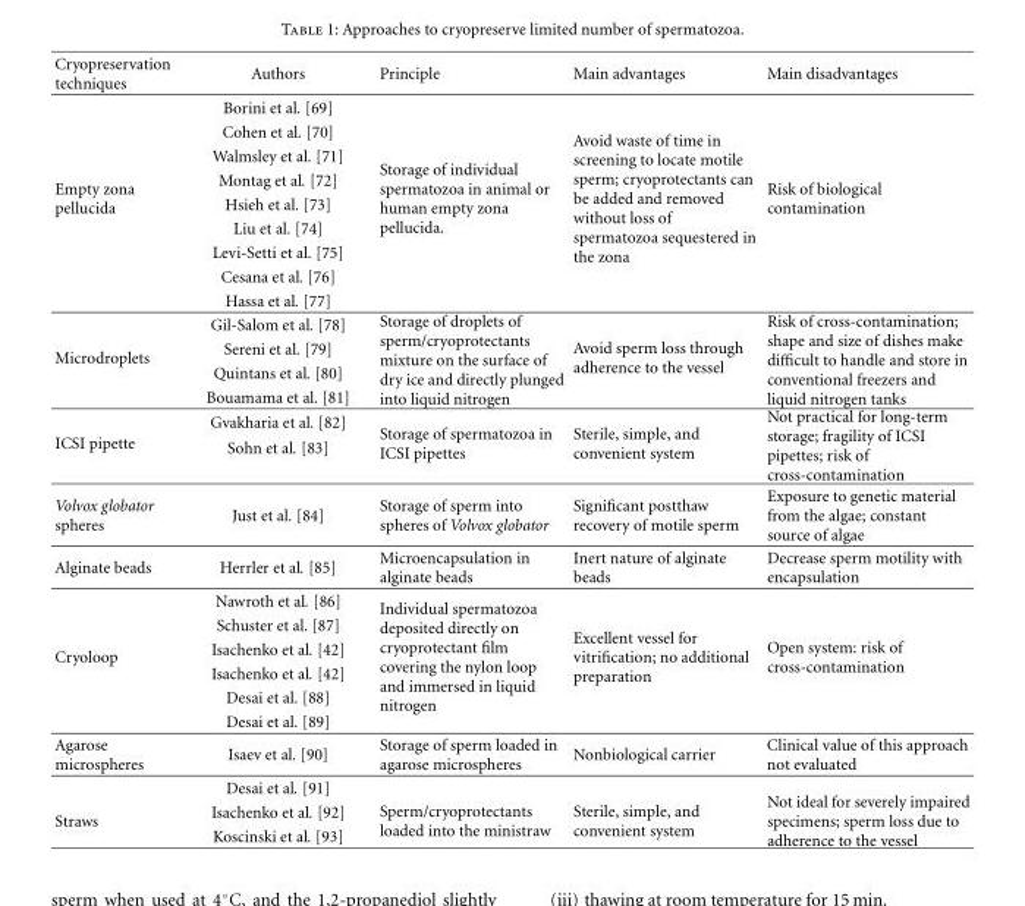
<table><thead><tr><td>Cryopreservation techniques</td><td>Authors</td><td>Principle</td><td>Main advantages</td><td>Main disadvantages</td></tr></thead><tbody><tr><td rowspan="9">Empty zona pellucida</td><td>Borini et al. [69]</td><td rowspan="9">Storage of individual spermatozoa in animal or human empty zona pellucida.</td><td rowspan="9">Avoid waste of time in screening to locate motile sperm; cryoprotectants can be added and removed without loss of spermatozoa sequestered in the zona</td><td rowspan="9">Risk of biological contamination</td></tr><tr><td>Cohen et al. [70]</td></tr><tr><td>Walmsley et al. [71]</td></tr><tr><td>Montag et al. [72]</td></tr><tr><td>Hsieh et al. [73]</td></tr><tr><td>Liu et al. [74]</td></tr><tr><td>Levi-Setti et al. [75]</td></tr><tr><td>Cesana et al. [76]</td></tr><tr><td>Hassa et al. [77]</td></tr><tr><td rowspan="4">Microdroplets</td><td>Gil-Salom et al. [78]</td><td rowspan="4">Storage of droplets of sperm/cryoprotectants mixture on the surface of dry ice and directly plunged into liquid nitrogen</td><td rowspan="4">Avoid sperm loss through adherence to the vessel</td><td rowspan="4">Risk of cross-contamination; shape and size of dishes make difficult to handle and store in conventional freezers and liquid nitrogen tanks</td></tr><tr><td>Sereni et al. [79]</td></tr><tr><td>Quintans et al. [80]</td></tr><tr><td>Bouamama et al. [81]</td></tr><tr><td rowspan="2">ICSI pipette</td><td>Gvakharia et al. [82]</td><td rowspan="2">Storage of spermatozoa in ICSI pipettes</td><td rowspan="2">Sterile, simple, and convenient system</td><td rowspan="2">Not practical for long-term storage; fragility of ICSI pipettes; risk of cross-contamination</td></tr><tr><td>Sohn et al. [83]</td></tr><tr><td>Volvox globator spheres</td><td>Just et al. [84]</td><td>Storage of sperm into spheres of Volvox globator</td><td>Significant postthaw recovery of motile sperm</td><td>Exposure to genetic material from the algae; constant source of algae</td></tr><tr><td>Alginate beads</td><td>Herrler et al. [85]</td><td>Microencapsulation in alginate beads</td><td>Inert nature of alginate beads</td><td>Decrease sperm motility with encapsulation</td></tr><tr><td rowspan="6">Cryoloop</td><td>Nawroth et al. [86]</td><td rowspan="6">Individual spermatozoa deposited directly on cryoprotectant film covering the nylon loop and immersed in liquid nitrogen</td><td rowspan="6">Excellent vessel for vitrification; no additional preparation</td><td rowspan="6">Open system: risk of cross-contamination</td></tr><tr><td>Schuster et al. [87]</td></tr><tr><td>Isachenko et al. [42]</td></tr><tr><td>Isachenko et al. [42]</td></tr><tr><td>Desai et al. [88]</td></tr><tr><td>Desai et al. [89]</td></tr><tr><td>Agarose microspheres</td><td>Isaev et al. [90]</td><td>Storage of sperm loaded in agarose microspheres</td><td>Nonbiological carrier</td><td>Clinical value of this approach not evaluated</td></tr><tr><td rowspan="3">Straws</td><td>Desai et al. [91]</td><td rowspan="3">Sperm/cryoprotectants loaded into the ministraw</td><td rowspan="3">Sterile, simple, and convenient system</td><td rowspan="3">Not ideal for severely impaired specimens; sperm loss due to adherence to the vessel</td></tr><tr><td>Isachenko et al. [92]</td></tr><tr><td>Koscinski et al. [93]</td></tr></tbody></table>